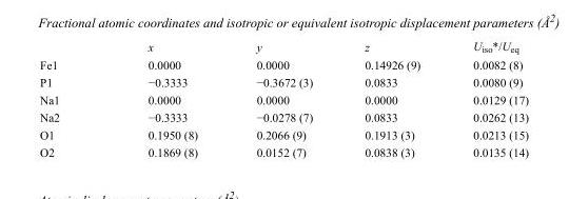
<table><thead><tr><td></td><td>x</td><td>y</td><td>z</td><td>U<sub>iso</sub>*/U<sub>eq</sub></td></tr></thead><tbody><tr><td>Fe1</td><td>0.0000</td><td>0.0000</td><td>0.14926 (9)</td><td>0.0082 (8)</td></tr><tr><td>P1</td><td>−0.3333</td><td>−0.3672 (3)</td><td>0.0833</td><td>0.0080 (9)</td></tr><tr><td>Na1</td><td>0.0000</td><td>0.0000</td><td>0.0000</td><td>0.0129 (17)</td></tr><tr><td>Na2</td><td>−0.3333</td><td>−0.0278 (7)</td><td>0.0833</td><td>0.0262 (13)</td></tr><tr><td>O1</td><td>0.1950 (8)</td><td>0.2066 (9)</td><td>0.1913 (3)</td><td>0.0213 (15)</td></tr><tr><td>O2</td><td>0.1869 (8)</td><td>0.0152 (7)</td><td>0.0838 (3)</td><td>0.0135 (14)</td></tr></tbody></table>